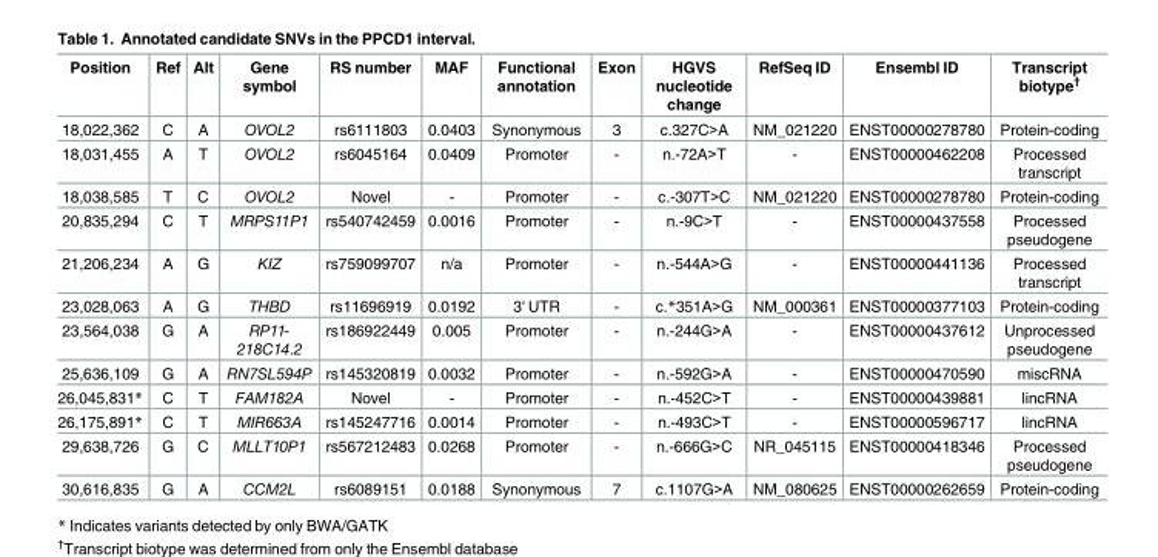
<table><thead><tr><td>Position</td><td>Ref</td><td>Alt</td><td>Gene symbol</td><td>RS number</td><td>MAF</td><td>Functional annotation</td><td>Exon</td><td>HGVS nucleotide change</td><td>RefSeq ID</td><td>Ensembl ID</td><td>Transcript biotype<sup>†</sup></td></tr></thead><tbody><tr><td>18,022,362</td><td>C</td><td>A</td><td>OVOL2</td><td>rs6111803</td><td>0.0403</td><td>Synonymous</td><td>3</td><td>c.327C&gt;A</td><td>NM_021220</td><td>ENST00000278780</td><td>Protein-coding</td></tr><tr><td>18,031,455</td><td>A</td><td>T</td><td>OVOL2</td><td>rs6045164</td><td>0.0409</td><td>Promoter</td><td>-</td><td>n.-72A&gt;T</td><td>-</td><td>ENST00000462208</td><td>Processed transcript</td></tr><tr><td>18,038,585</td><td>T</td><td>C</td><td>OVOL2</td><td>Novel</td><td>-</td><td>Promoter</td><td>-</td><td>c.-307T&gt;C</td><td>NM_021220</td><td>ENST00000278780</td><td>Protein-coding</td></tr><tr><td>20,835,294</td><td>C</td><td>T</td><td>MRPS11P1</td><td>rs540742459</td><td>0.0016</td><td>Promoter</td><td>-</td><td>n.-9C&gt;T</td><td>-</td><td>ENST00000437558</td><td>Processed pseudogene</td></tr><tr><td>21,206,234</td><td>A</td><td>G</td><td>KIZ</td><td>rs759099707</td><td>n/a</td><td>Promoter</td><td>-</td><td>n.-544A&gt;G</td><td>-</td><td>ENST00000441136</td><td>Processed transcript</td></tr><tr><td>23,028,063</td><td>A</td><td>G</td><td>THBD</td><td>rs11696919</td><td>0.0192</td><td>3&#x27; UTR</td><td>-</td><td>c.*351A&gt;G</td><td>NM_000361</td><td>ENST00000377103</td><td>Protein-coding</td></tr><tr><td>23,564,038</td><td>G</td><td>A</td><td>RP11- 218C14.2</td><td>rs186922449</td><td>0.005</td><td>Promoter</td><td>-</td><td>n.-244G&gt;A</td><td>-</td><td>ENST00000437612</td><td>Unprocessed pseudogene</td></tr><tr><td>25,636,109</td><td>G</td><td>A</td><td>RN7SL594P</td><td>rs145320819</td><td>0.0032</td><td>Promoter</td><td>-</td><td>n.-592G&gt;A</td><td>-</td><td>ENST00000470590</td><td>miscRNA</td></tr><tr><td>26,045,831*</td><td>C</td><td>T</td><td>FAM182A</td><td>Novel</td><td>-</td><td>Promoter</td><td>-</td><td>n.-452C&gt;T</td><td>-</td><td>ENST00000439881</td><td>lincRNA</td></tr><tr><td>26,175,891*</td><td>C</td><td>T</td><td>MIR663A</td><td>rs145247716</td><td>0.0014</td><td>Promoter</td><td>-</td><td>n.-493C&gt;T</td><td>-</td><td>ENST00000596717</td><td>lincRNA</td></tr><tr><td>29,638,726</td><td>G</td><td>C</td><td>MLLT10P1</td><td>rs567212483</td><td>0.0268</td><td>Promoter</td><td>-</td><td>n.-666G&gt;C</td><td>NR_045115</td><td>ENST00000418346</td><td>Processed pseudogene</td></tr><tr><td>30,616,835</td><td>G</td><td>A</td><td>CCM2L</td><td>rs6089151</td><td>0.0188</td><td>Synonymous</td><td>7</td><td>c.1107G&gt;A</td><td>NM_080625</td><td>ENST00000262659</td><td>Protein-coding</td></tr></tbody></table>